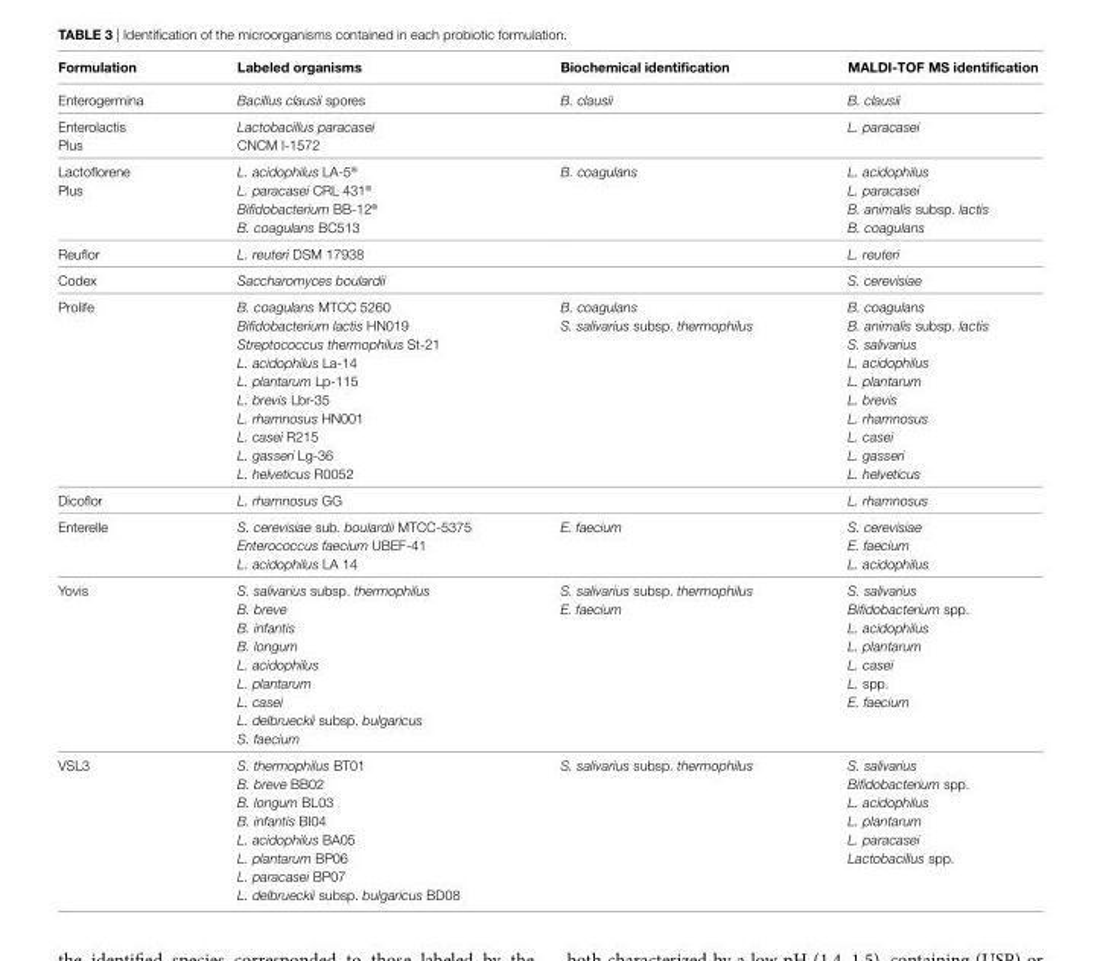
<table><thead><tr><td>Formulation</td><td>labeled organisms</td><td>Biochemical identification</td><td>MalDi-TOF Ms identification</td></tr></thead><tbody><tr><td>Enterogermina</td><td>Bacillus clausii spores</td><td>B. clausii</td><td>B. clausii</td></tr><tr><td>Enterolactis Plus</td><td>Lactobacillus paracasei CNCM I-1572</td><td></td><td>L. paracasei</td></tr><tr><td>Lactoflorene Plus</td><td>L. acidophilus LA-5® L. paracasei CRL 431® Bifidobacterium BB-12® B. coagulans BC513</td><td>B. coagulans</td><td>L. acidophilus L. paracasei B. animalis subsp. lactis B. coagulans</td></tr><tr><td>Reuflor</td><td>L. reuteri DSM 17938</td><td></td><td>L. reuteri</td></tr><tr><td>Codex</td><td>Saccharomyces boulardii</td><td></td><td>S. cerevisiae</td></tr><tr><td>Prolife</td><td>B. coagulans MTCC 5260 Bifidobacterium lactis HN019 Streptococcus thermophilus St-21 L. acidophilus La-14 L. plantarum Lp-115 L. brevis Lbr-35 L. rhamnosus HN001 L. casei R215 L. gasseri Lg-36 L. helveticus R0052</td><td>B. coagulans S. salivarius subsp. thermophilus</td><td>B. coagulans B. animalis subsp. lactis S. salivarius L. acidophilus L. plantarum L. brevis L. rhamnosus L. casei L. gasseri L. helveticus</td></tr><tr><td>Dicoflor</td><td>L. rhamnosus GG</td><td></td><td>L. rhamnosus</td></tr><tr><td>Enterelle</td><td>S. cerevisiae sub. boulardii MTCC-5375 Enterococcus faecium UBEF-41 L. acidophilus LA 14</td><td>E. faecium</td><td>S. cerevisiae E. faecium L. acidophilus</td></tr><tr><td>Yovis</td><td>S. salivarius subsp. thermophilus B. breve B. infantis B. longum L. acidophilus L. plantarum L. casei L. delbrueckii subsp. bulgaricus S. faecium</td><td>S. salivarius subsp. thermophilus E. faecium</td><td>S. salivarius Bifidobacterium spp. L. acidophilus L. plantarum L. casei L. spp. E. faecium</td></tr><tr><td>VSL3</td><td>S. thermophilus BT01 B. breve BB02 B. longum BL03 B. infantis BI04 L. acidophilus BA05 L. plantarum BP06 L. paracasei BP07 L. delbrueckii subsp. bulgaricus BD08</td><td>S. salivarius subsp. thermophilus</td><td>S. salivarius Bifidobacterium spp. L. acidophilus L. plantarum L. paracasei Lactobacillus spp.</td></tr></tbody></table>